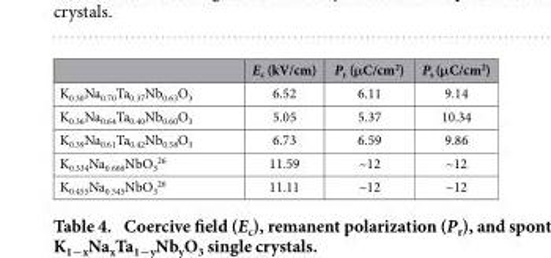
<table><thead><tr><td></td><td>E<sub>c</sub> (kV/cm)</td><td>P<sub>r</sub> (μC/cm<sup>2</sup>)</td><td>P<sub>s</sub> (μC/cm<sup>2</sup>)</td></tr></thead><tbody><tr><td>K<sub>0.30</sub>Na<sub>0.70</sub>Ta<sub>0.37</sub>Nb<sub>0.63</sub>O<sub>3</sub></td><td>6.52</td><td>6.11</td><td>9.14</td></tr><tr><td>K<sub>0.36</sub>Na<sub>0.64</sub>Ta<sub>0.40</sub>Nb<sub>0.60</sub>O<sub>3</sub></td><td>5.05</td><td>5.37</td><td>10.34</td></tr><tr><td>K<sub>0.39</sub>Na<sub>0.61</sub>Ta<sub>0.42</sub>Nb<sub>0.58</sub>O<sub>3</sub></td><td>6.73</td><td>6.59</td><td>9.86</td></tr><tr><td>K<sub>0.334</sub>Na<sub>0.666</sub>NbO<sub>3</sub> <sup>26</sup></td><td>11.59</td><td>~12</td><td>~12</td></tr><tr><td>K<sub>0.455</sub>Na<sub>0.545</sub>NbO<sub>3</sub> <sup>26</sup></td><td>11.11</td><td>~12</td><td>~12</td></tr></tbody></table>